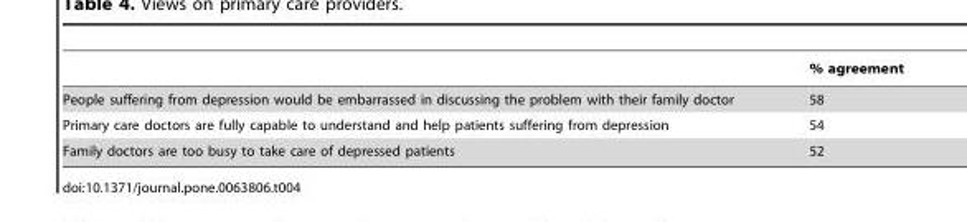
<table><thead><tr><td></td><td>% agreement</td></tr></thead><tbody><tr><td>People suffering from depression would be embarrassed in discussing the problem with their family doctor</td><td>58</td></tr><tr><td>Primary care doctors are fully capable to understand and help patients suffering from depression</td><td>54</td></tr><tr><td>Family doctors are too busy to take care of depressed patients</td><td>52</td></tr></tbody></table>